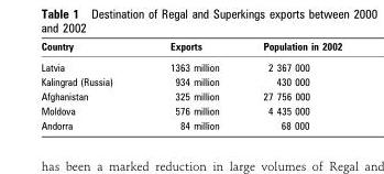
<table><thead><tr><td>Country</td><td>Exports</td><td>Population in 2002</td></tr></thead><tbody><tr><td>Latvia</td><td>1363 million</td><td>2 367 000</td></tr><tr><td>Kalingrad (Russia)</td><td>934 million</td><td>430 000</td></tr><tr><td>Afghanistan</td><td>325 million</td><td>27 756 000</td></tr><tr><td>Moldova</td><td>576 million</td><td>4 435 000</td></tr><tr><td>Andorra</td><td>84 million</td><td>68 000</td></tr></tbody></table>